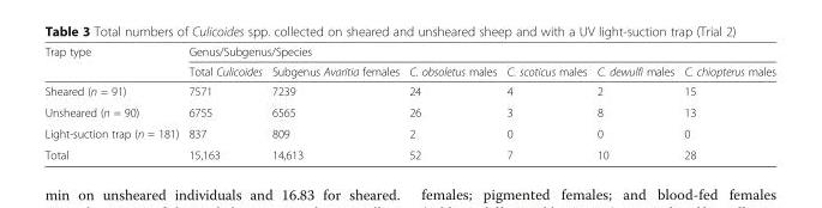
<table><thead><tr><td rowspan="2">Trap type</td><td colspan="6">Genus/Subgenus/Species</td></tr><tr><td>Total Culicoides</td><td>Subgenus Avaritia females</td><td>C. obsoletus males</td><td>C. scoticus males</td><td>C. dewulfi males</td><td>C. chiopterus males</td></tr></thead><tbody><tr><td>Sheared (n = 91)</td><td>7571</td><td>7239</td><td>24</td><td>4</td><td>2</td><td>15</td></tr><tr><td>Unsheared (n = 90)</td><td>6755</td><td>6565</td><td>26</td><td>3</td><td>8</td><td>13</td></tr><tr><td>Light-suction trap (n = 181)</td><td>837</td><td>809</td><td>2</td><td>0</td><td>0</td><td>0</td></tr><tr><td>Total</td><td>15,163</td><td>14,613</td><td>52</td><td>7</td><td>10</td><td>28</td></tr></tbody></table>